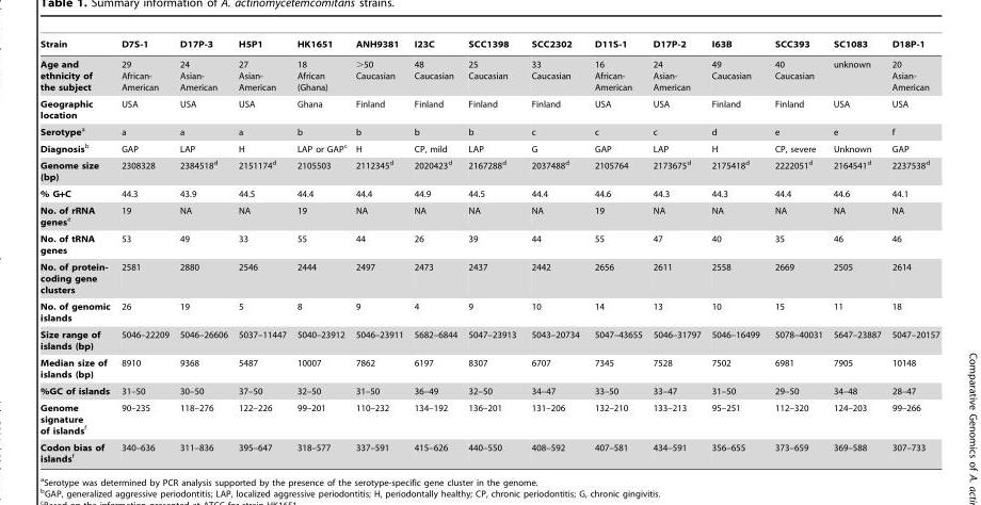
<table><thead><tr><td>Strain</td><td>D7S-1</td><td>D17P-3</td><td>H5P1</td><td>HK1651</td><td>ANH9381</td><td>I23C</td><td>SCC1398</td><td>SCC2302</td><td>D11S-1</td><td>D17P-2</td><td>I63B</td><td>SCC393</td><td>SC1083</td><td>D18P-1</td></tr></thead><tbody><tr><td>Age and ethnicity of the subject</td><td>29 African- American</td><td>24 Asian- American</td><td>27 Asian- American</td><td>18 African (Ghana)</td><td>&gt;50 Caucasian</td><td>48 Caucasian</td><td>25 Caucasian</td><td>33 Caucasian</td><td>16 African- American</td><td>24 Asian- American</td><td>49 Caucasian</td><td>40 Caucasian</td><td>unknown</td><td>20 Asian- American</td></tr><tr><td>Geographic location</td><td>USA</td><td>USA</td><td>USA</td><td>Ghana</td><td>Finland</td><td>Finland</td><td>Finland</td><td>Finland</td><td>USA</td><td>USA</td><td>Finland</td><td>Finland</td><td>USA</td><td>USA</td></tr><tr><td>Serotypea</td><td>a</td><td>a</td><td>a</td><td>b</td><td>b</td><td>b</td><td>b</td><td>c</td><td>c</td><td>c</td><td>d</td><td>e</td><td>e</td><td>f</td></tr><tr><td>Diagnosisb</td><td>GAP</td><td>LAP</td><td>H</td><td>LAP or GAP<sup>c</sup></td><td>H</td><td>CP, mild</td><td>LAP</td><td>G</td><td>GAP</td><td>LAP</td><td>H</td><td>CP, severe</td><td>Unknown</td><td>GAP</td></tr><tr><td>Genome size (bp)</td><td>2308328</td><td>2384518<sup>d</sup></td><td>2151174<sup>d</sup></td><td>2105503</td><td>2112345<sup>d</sup></td><td>2020423<sup>d</sup></td><td>2167288<sup>d</sup></td><td>2037488<sup>d</sup></td><td>2105764</td><td>2173675<sup>d</sup></td><td>2175418<sup>d</sup></td><td>2222051<sup>d</sup></td><td>2164541<sup>d</sup></td><td>2237538<sup>d</sup></td></tr><tr><td>% G+C</td><td>44.3</td><td>43.9</td><td>44.5</td><td>44.4</td><td>44.4</td><td>44.9</td><td>44.5</td><td>44.4</td><td>44.6</td><td>44.3</td><td>44.3</td><td>44.4</td><td>44.6</td><td>44.1</td></tr><tr><td>No. of rRNA genese</td><td>19</td><td>NA</td><td>NA</td><td>19</td><td>NA</td><td>NA</td><td>NA</td><td>NA</td><td>19</td><td>NA</td><td>NA</td><td>NA</td><td>NA</td><td>NA</td></tr><tr><td>No. of tRNA genes</td><td>53</td><td>49</td><td>33</td><td>55</td><td>44</td><td>26</td><td>39</td><td>44</td><td>55</td><td>47</td><td>40</td><td>35</td><td>46</td><td>46</td></tr><tr><td>No. of protein- coding gene clusters</td><td>2581</td><td>2880</td><td>2546</td><td>2444</td><td>2497</td><td>2473</td><td>2437</td><td>2442</td><td>2656</td><td>2611</td><td>2558</td><td>2669</td><td>2505</td><td>2614</td></tr><tr><td>No. of genomic islands</td><td>26</td><td>19</td><td>5</td><td>8</td><td>9</td><td>4</td><td>9</td><td>10</td><td>14</td><td>13</td><td>10</td><td>15</td><td>11</td><td>18</td></tr><tr><td>Size range of islands (bp)</td><td>5046–22209</td><td>5046–26606</td><td>5037–11447</td><td>5040–23912</td><td>5046–23911</td><td>5682–6844</td><td>5047–23913</td><td>5043–20734</td><td>5047–43655</td><td>5046–31797</td><td>5046–16499</td><td>5078–40031</td><td>5647–23887</td><td>5047–20157</td></tr><tr><td>Median size of islands (bp)</td><td>8910</td><td>9368</td><td>5487</td><td>10007</td><td>7862</td><td>6197</td><td>8307</td><td>6707</td><td>7345</td><td>7528</td><td>7502</td><td>6981</td><td>7905</td><td>10148</td></tr><tr><td>%GC of islands</td><td>31–50</td><td>30–50</td><td>37–50</td><td>32–50</td><td>31–50</td><td>36–49</td><td>32–50</td><td>34–47</td><td>33–50</td><td>33–47</td><td>31–50</td><td>29–50</td><td>34–48</td><td>28–47</td></tr><tr><td>Genome signature of islandsf</td><td>90–235</td><td>118–276</td><td>122–226</td><td>99–201</td><td>110–232</td><td>134–192</td><td>136–201</td><td>131–206</td><td>132–210</td><td>133–213</td><td>95–251</td><td>112–320</td><td>124–203</td><td>99–266</td></tr><tr><td>Codon bias of islandsf</td><td>340–636</td><td>311–836</td><td>395–647</td><td>318–577</td><td>337–591</td><td>415–626</td><td>440–550</td><td>408–592</td><td>407–581</td><td>434–591</td><td>356–655</td><td>373–659</td><td>369–588</td><td>307–733</td></tr></tbody></table>